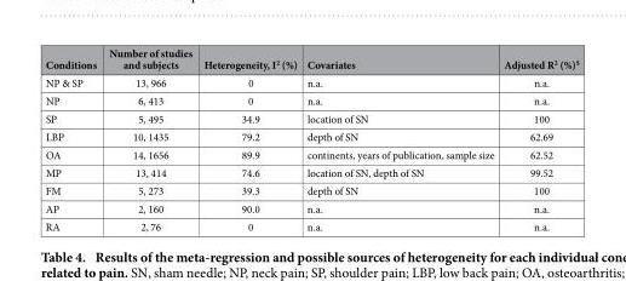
<table><thead><tr><td>Conditions</td><td>Number of studies and subjects</td><td>Heterogeneity, I<sup>2</sup> (%)</td><td>Covariates</td><td>Adjusted R<sup>2</sup> (%)$</td></tr></thead><tbody><tr><td>NP &amp; SP</td><td>13, 966</td><td>0</td><td>n.a.</td><td>n.a.</td></tr><tr><td>NP</td><td>6, 413</td><td>0</td><td>n.a.</td><td>n.a.</td></tr><tr><td>SP</td><td>5, 495</td><td>34.9</td><td>location of SN</td><td>100</td></tr><tr><td>LBP</td><td>10, 1435</td><td>79.2</td><td>depth of SN</td><td>62.69</td></tr><tr><td>OA</td><td>14, 1656</td><td>89.9</td><td>continents, years of publication, sample size</td><td>62.52</td></tr><tr><td>MP</td><td>13, 414</td><td>74.6</td><td>location of SN, depth of SN</td><td>99.52</td></tr><tr><td>FM</td><td>5, 273</td><td>39.3</td><td>depth of SN</td><td>100</td></tr><tr><td>AP</td><td>2, 160</td><td>90.0</td><td>n.a.</td><td>n.a.</td></tr><tr><td>RA</td><td>2, 76</td><td>0</td><td>n.a.</td><td>n.a.</td></tr></tbody></table>